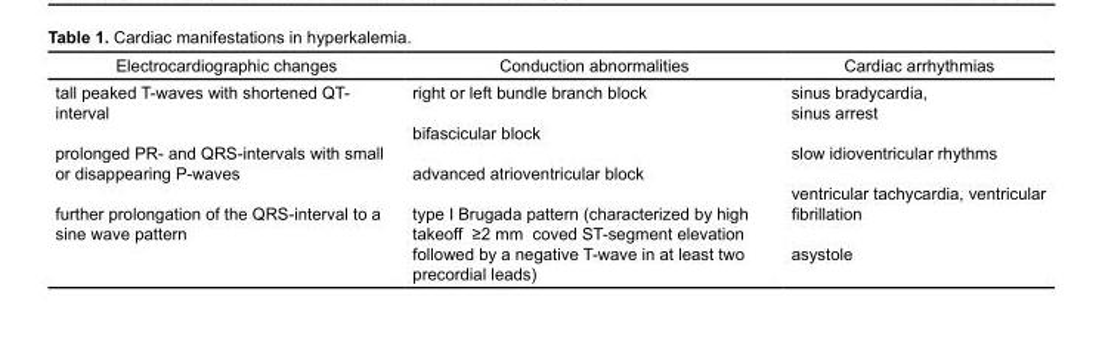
<table><thead><tr><td>Electrocardiographic changes</td><td>Conduction abnormalities</td><td>Cardiac arrhythmias</td></tr></thead><tbody><tr><td>tall peaked T-waves with shortened QT- interval prolonged PR- and QRS-intervals with small or disappearing P-waves further prolongation of the QRS-interval to a sine wave pattern</td><td>right or left bundle branch block bifascicular block advanced atrioventricular block type I Brugada pattern (characterized by high takeoff ≥2 mm coved ST-segment elevation followed by a negative T-wave in at least two precordial leads)</td><td>sinus bradycardia, sinus arrest slow idioventricular rhythms ventricular tachycardia, ventricular fibrillation asystole</td></tr></tbody></table>